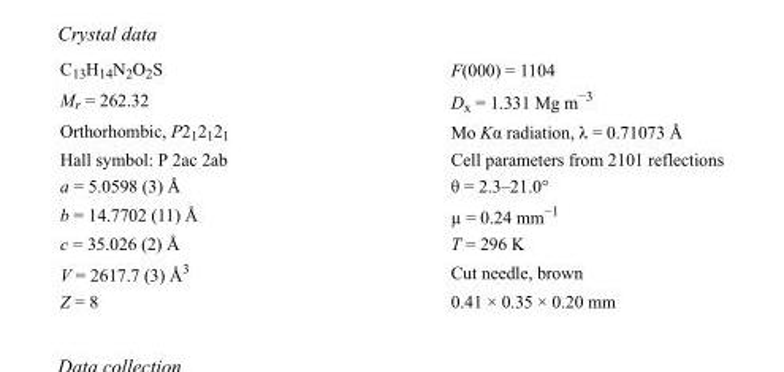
<table><tbody><tr><td>C<sub>13</sub>H<sub>14</sub>N<sub>2</sub>O<sub>2</sub>S</td><td>F(000) = 1104</td></tr><tr><td>M<sub>r</sub> = 262.32</td><td>D<sub>x</sub> = 1.331 Mg m<sup>−3</sup></td></tr><tr><td>Orthorhombic, P2<sub>1</sub>2<sub>1</sub>2<sub>1</sub></td><td>Mo Kα radiation, λ = 0.71073 Å</td></tr><tr><td>Hall symbol: P 2ac 2ab</td><td>Cell parameters from 2101 reflections</td></tr><tr><td>a = 5.0598 (3) Å</td><td>θ = 2.3–21.0°</td></tr><tr><td>b = 14.7702 (11) Å</td><td>µ = 0.24 mm<sup>−1</sup></td></tr><tr><td>c = 35.026 (2) Å</td><td>T = 296 K</td></tr><tr><td>V = 2617.7 (3) Å<sup>3</sup></td><td>Cut needle, brown</td></tr><tr><td>Z = 8</td><td>0.41 × 0.35 × 0.20 mm</td></tr></tbody></table>